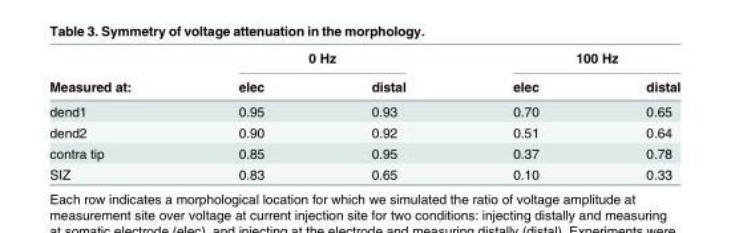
<table><thead><tr><td rowspan="2">Measured at:</td><td colspan="2">0 Hz</td><td colspan="2">100 Hz</td></tr><tr><td>elec</td><td>distal</td><td>elec</td><td>distal</td></tr></thead><tbody><tr><td>dend1</td><td>0.95</td><td>0.93</td><td>0.70</td><td>0.65</td></tr><tr><td>dend2</td><td>0.90</td><td>0.92</td><td>0.51</td><td>0.64</td></tr><tr><td>contra tip</td><td>0.85</td><td>0.95</td><td>0.37</td><td>0.78</td></tr><tr><td>SIZ</td><td>0.83</td><td>0.65</td><td>0.10</td><td>0.33</td></tr></tbody></table>